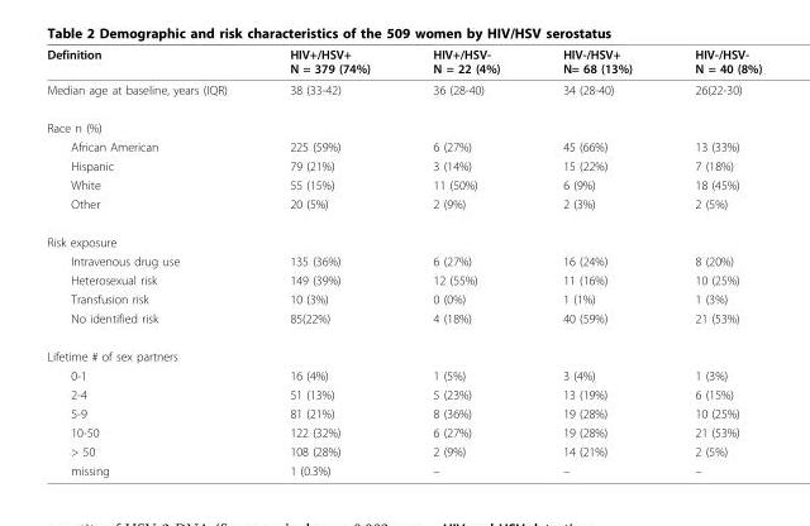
<table><thead><tr><td>Definition</td><td>HIV+/HSV+ N = 379 (74%)</td><td>HIV+/HSV- N = 22 (4%)</td><td>HIV-/HSV+ N= 68 (13%)</td><td>HIV-/HSV- N = 40 (8%)</td></tr></thead><tbody><tr><td>Median age at baseline, years (IQR)</td><td>38 (33-42)</td><td>36 (28-40)</td><td>34 (28-40)</td><td>26(22-30)</td></tr><tr><td colspan="5">Race n (%)</td></tr><tr><td>African American</td><td>225 (59%)</td><td>6 (27%)</td><td>45 (66%)</td><td>13 (33%)</td></tr><tr><td>Hispanic</td><td>79 (21%)</td><td>3 (14%)</td><td>15 (22%)</td><td>7 (18%)</td></tr><tr><td>White</td><td>55 (15%)</td><td>11 (50%)</td><td>6 (9%)</td><td>18 (45%)</td></tr><tr><td>Other</td><td>20 (5%)</td><td>2 (9%)</td><td>2 (3%)</td><td>2 (5%)</td></tr><tr><td colspan="5">Risk exposure</td></tr><tr><td>Intravenous drug use</td><td>135 (36%)</td><td>6 (27%)</td><td>16 (24%)</td><td>8 (20%)</td></tr><tr><td>Heterosexual risk</td><td>149 (39%)</td><td>12 (55%)</td><td>11 (16%)</td><td>10 (25%)</td></tr><tr><td>Transfusion risk</td><td>10 (3%)</td><td>0 (0%)</td><td>1 (1%)</td><td>1 (3%)</td></tr><tr><td>No identified risk</td><td>85(22%)</td><td>4 (18%)</td><td>40 (59%)</td><td>21 (53%)</td></tr><tr><td colspan="5">Lifetime # of sex partners</td></tr><tr><td>0-1</td><td>16 (4%)</td><td>1 (5%)</td><td>3 (4%)</td><td>1 (3%)</td></tr><tr><td>2-4</td><td>51 (13%)</td><td>5 (23%)</td><td>13 (19%)</td><td>6 (15%)</td></tr><tr><td>5-9</td><td>81 (21%)</td><td>8 (36%)</td><td>19 (28%)</td><td>10 (25%)</td></tr><tr><td>10-50</td><td>122 (32%)</td><td>6 (27%)</td><td>19 (28%)</td><td>21 (53%)</td></tr><tr><td>&gt; 50</td><td>108 (28%)</td><td>2 (9%)</td><td>14 (21%)</td><td>2 (5%)</td></tr><tr><td>missing</td><td>1 (0.3%)</td><td>–</td><td>–</td><td>–</td></tr></tbody></table>